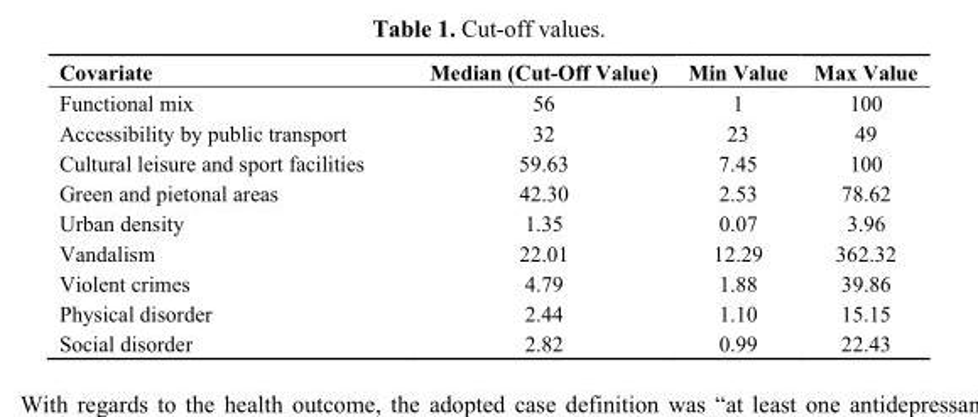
<table><thead><tr><td>Covariate</td><td>Median (Cut-Off Value)</td><td>Min Value</td><td>Max Value</td></tr></thead><tbody><tr><td>Functional mix</td><td>56</td><td>1</td><td>100</td></tr><tr><td>Accessibility by public transport</td><td>32</td><td>23</td><td>49</td></tr><tr><td>Cultural leisure and sport facilities</td><td>59.63</td><td>7.45</td><td>100</td></tr><tr><td>Green and pietonal areas</td><td>42.30</td><td>2.53</td><td>78.62</td></tr><tr><td>Urban density</td><td>1.35</td><td>0.07</td><td>3.96</td></tr><tr><td>Vandalism</td><td>22.01</td><td>12.29</td><td>362.32</td></tr><tr><td>Violent crimes</td><td>4.79</td><td>1.88</td><td>39.86</td></tr><tr><td>Physical disorder</td><td>2.44</td><td>1.10</td><td>15.15</td></tr><tr><td>Social disorder</td><td>2.82</td><td>0.99</td><td>22.43</td></tr></tbody></table>